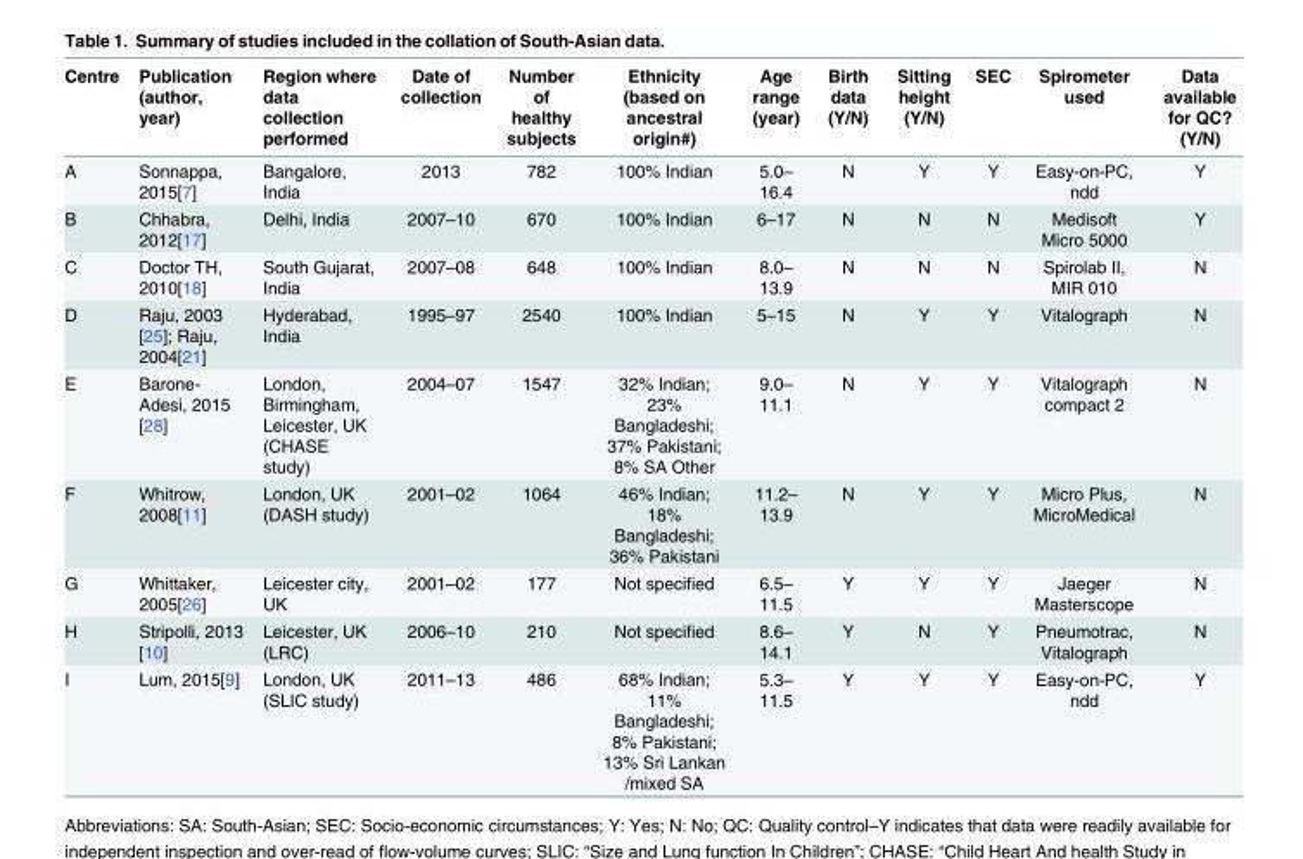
<table><thead><tr><td>Centre</td><td>Publication (author, year)</td><td>Region where data collection performed</td><td>Date of collection</td><td>Number of healthy subjects</td><td>Ethnicity (based on ancestral origin#)</td><td>Age range (year)</td><td>Birth data (Y/N)</td><td>Sitting height (Y/N)</td><td>SEC</td><td>Spirometer used</td><td>Data available for QC? (Y/N)</td></tr></thead><tbody><tr><td>A</td><td>Sonnappa, 2015[7]</td><td>Bangalore, India</td><td>2013</td><td>782</td><td>100% Indian</td><td>5.0– 16.4</td><td>N</td><td>Y</td><td>Y</td><td>Easy-on-PC, ndd</td><td>Y</td></tr><tr><td>B</td><td>Chhabra, 2012[17]</td><td>Delhi, India</td><td>2007–10</td><td>670</td><td>100% Indian</td><td>6–17</td><td>N</td><td>N</td><td>N</td><td>Medisoft Micro 5000</td><td>Y</td></tr><tr><td>C</td><td>Doctor TH, 2010[18]</td><td>South Gujarat, India</td><td>2007–08</td><td>648</td><td>100% Indian</td><td>8.0– 13.9</td><td>N</td><td>N</td><td>N</td><td>Spirolab II, MIR 010</td><td>N</td></tr><tr><td>D</td><td>Raju, 2003 [25]; Raju, 2004[21]</td><td>Hyderabad, India</td><td>1995–97</td><td>2540</td><td>100% Indian</td><td>5–15</td><td>N</td><td>Y</td><td>Y</td><td>Vitalograph</td><td>N</td></tr><tr><td>E</td><td>Barone- Adesi, 2015 [28]</td><td>London, Birmingham, Leicester, UK (CHASE study)</td><td>2004–07</td><td>1547</td><td>32% Indian; 23% Bangladeshi; 37% Pakistani; 8% SA Other</td><td>9.0– 11.1</td><td>N</td><td>Y</td><td>Y</td><td>Vitalograph compact 2</td><td>N</td></tr><tr><td>F</td><td>Whitrow, 2008[11]</td><td>London, UK (DASH study)</td><td>2001–02</td><td>1064</td><td>46% Indian; 18% Bangladeshi; 36% Pakistani</td><td>11.2– 13.9</td><td>N</td><td>Y</td><td>Y</td><td>Micro Plus, MicroMedical</td><td>N</td></tr><tr><td>G</td><td>Whittaker, 2005[26]</td><td>Leicester city, UK</td><td>2001–02</td><td>177</td><td>Not specified</td><td>6.5– 11.5</td><td>Y</td><td>Y</td><td>Y</td><td>Jaeger Masterscope</td><td>N</td></tr><tr><td>H</td><td>Stripolli, 2013 [10]</td><td>Leicester, UK (LRC)</td><td>2006–10</td><td>210</td><td>Not specified</td><td>8.6– 14.1</td><td>Y</td><td>N</td><td>Y</td><td>Pneumotrac, Vitalograph</td><td>N</td></tr><tr><td>I</td><td>Lum, 2015[9]</td><td>London, UK (SLIC study)</td><td>2011–13</td><td>486</td><td>68% Indian; 11% Bangladeshi; 8% Pakistani; 13% Sri Lankan /mixed SA</td><td>5.3– 11.5</td><td>Y</td><td>Y</td><td>Y</td><td>Easy-on-PC, ndd</td><td>Y</td></tr></tbody></table>